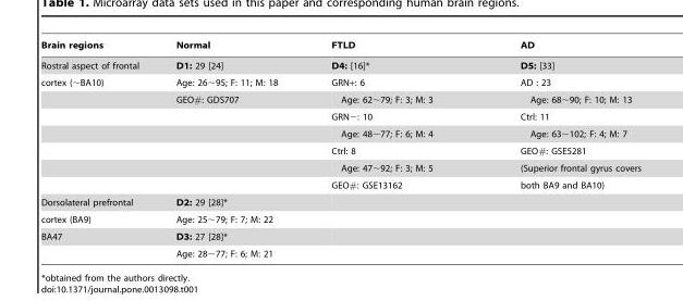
<table><thead><tr><td>Brain regions</td><td>Normal</td><td>FTLD</td><td>AD</td></tr></thead><tbody><tr><td>Rostral aspect of frontal</td><td>D1: 29 [24]</td><td>D4: [16]*</td><td>D5: [33]</td></tr><tr><td rowspan="7">cortex (∼BA10)</td><td>Age: 26∼95; F: 11; M: 18</td><td>GRN+: 6</td><td>AD : 23</td></tr><tr><td>GEO#: GDS707</td><td>Age: 62∼79; F: 3; M: 3</td><td>Age: 68∼90; F: 10; M: 13</td></tr><tr><td></td><td>GRN−: 10</td><td>Ctrl: 11</td></tr><tr><td></td><td>Age: 48∼77; F: 6; M: 4</td><td>Age: 63∼102; F: 4; M: 7</td></tr><tr><td></td><td>Ctrl: 8</td><td>GEO#: GSE5281</td></tr><tr><td></td><td>Age: 47∼92; F: 3; M: 5</td><td>(Superior frontal gyrus covers</td></tr><tr><td></td><td>GEO#: GSE13162</td><td>both BA9 and BA10)</td></tr><tr><td>Dorsolateral prefrontal</td><td>D2: 29 [28]*</td><td></td><td></td></tr><tr><td>cortex (BA9)</td><td>Age: 25∼79; F: 7; M: 22</td><td></td><td></td></tr><tr><td rowspan="2">BA47</td><td>D3: 27 [28]*</td><td></td><td></td></tr><tr><td>Age: 28∼77; F: 6; M: 21</td><td></td><td></td></tr></tbody></table>